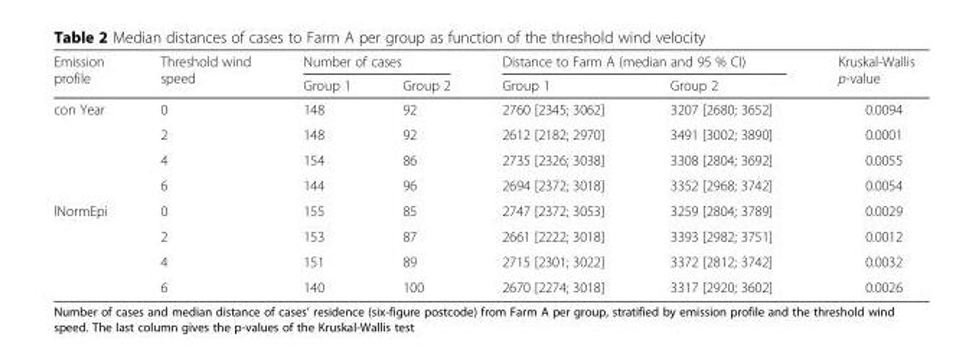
<table><thead><tr><td rowspan="2">Emission profile</td><td rowspan="2">Threshold wind speed</td><td colspan="2">Number of cases</td><td colspan="2">Distance to Farm A (median and 95 % CI)</td><td rowspan="2">Kruskal-Wallis p-value</td></tr><tr><td>Group 1</td><td>Group 2</td><td>Group 1</td><td>Group 2</td></tr></thead><tbody><tr><td rowspan="4">con Year</td><td>0</td><td>148</td><td>92</td><td>2760 [2345; 3062]</td><td>3207 [2680; 3652]</td><td>0.0094</td></tr><tr><td>2</td><td>148</td><td>92</td><td>2612 [2182; 2970]</td><td>3491 [3002; 3890]</td><td>0.0001</td></tr><tr><td>4</td><td>154</td><td>86</td><td>2735 [2326; 3038]</td><td>3308 [2804; 3692]</td><td>0.0055</td></tr><tr><td>6</td><td>144</td><td>96</td><td>2694 [2372; 3018]</td><td>3352 [2968; 3742]</td><td>0.0054</td></tr><tr><td rowspan="4">lNormEpi</td><td>0</td><td>155</td><td>85</td><td>2747 [2372; 3053]</td><td>3259 [2804; 3789]</td><td>0.0029</td></tr><tr><td>2</td><td>153</td><td>87</td><td>2661 [2222; 3018]</td><td>3393 [2982; 3751]</td><td>0.0012</td></tr><tr><td>4</td><td>151</td><td>89</td><td>2715 [2301; 3022]</td><td>3372 [2812; 3742]</td><td>0.0032</td></tr><tr><td>6</td><td>140</td><td>100</td><td>2670 [2274; 3018]</td><td>3317 [2920; 3602]</td><td>0.0026</td></tr></tbody></table>